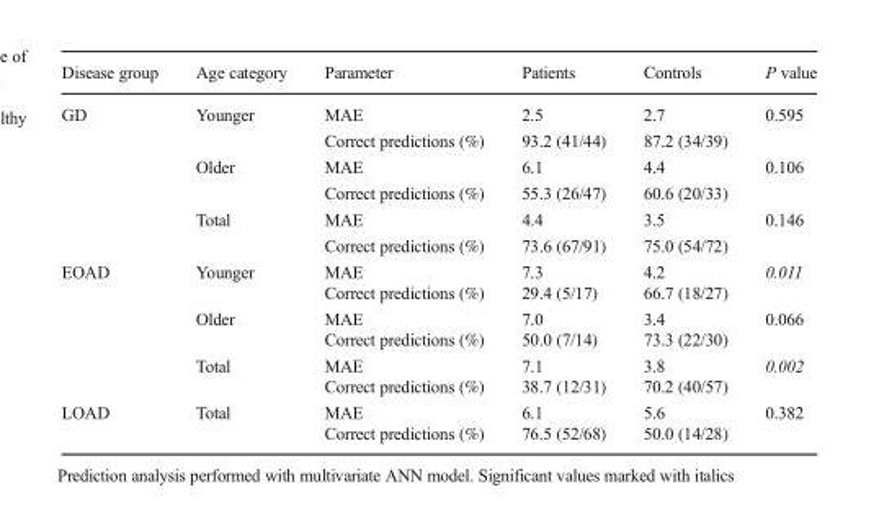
<table><thead><tr><td>Disease group</td><td>Age category</td><td>Parameter</td><td>Patients</td><td>Controls</td><td>P value</td></tr></thead><tbody><tr><td rowspan="6">GD</td><td rowspan="2">Younger</td><td>MAE</td><td>2.5</td><td>2.7</td><td>0.595</td></tr><tr><td>Correct predictions (%)</td><td>93.2 (41/44)</td><td>87.2 (34/39)</td><td></td></tr><tr><td rowspan="2">Older</td><td>MAE</td><td>6.1</td><td>4.4</td><td>0.106</td></tr><tr><td>Correct predictions (%)</td><td>55.3 (26/47)</td><td>60.6 (20/33)</td><td></td></tr><tr><td rowspan="2">Total</td><td>MAE</td><td>4.4</td><td>3.5</td><td>0.146</td></tr><tr><td>Correct predictions (%)</td><td>73.6 (67/91)</td><td>75.0 (54/72)</td><td></td></tr><tr><td rowspan="6">EOAD</td><td rowspan="2">Younger</td><td>MAE</td><td>7.3</td><td>4.2</td><td rowspan="2">0.011</td></tr><tr><td>Correct predictions (%)</td><td>29.4 (5/17)</td><td>66.7 (18/27)</td></tr><tr><td rowspan="2">Older</td><td>MAE</td><td>7.0</td><td>3.4</td><td rowspan="2">0.066</td></tr><tr><td>Correct predictions (%)</td><td>50.0 (7/14)</td><td>73.3 (22/30)</td></tr><tr><td rowspan="2">Total</td><td>MAE</td><td>7.1</td><td>3.8</td><td rowspan="2">0.002</td></tr><tr><td>Correct predictions (%)</td><td>38.7 (12/31)</td><td>70.2 (40/57)</td></tr><tr><td rowspan="2">LOAD</td><td rowspan="2">Total</td><td>MAE</td><td>6.1</td><td>5.6</td><td rowspan="2">0.382</td></tr><tr><td>Correct predictions (%)</td><td>76.5 (52/68)</td><td>50.0 (14/28)</td></tr></tbody></table>